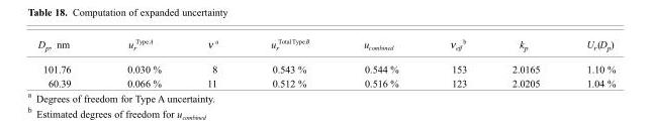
<table><thead><tr><td>D<sub>p</sub>, nm</td><td>u<sub>r</sub> <sup>TypeA</sup></td><td>ν <sup>a</sup></td><td>u<sub>r</sub> <sup>TotalTypeB</sup></td><td>u<sub>combined</sub></td><td>ν<sub>eff</sub> <sup>b</sup></td><td>k<sub>p</sub></td><td>U<sub>r</sub>(D<sub>p</sub>)</td></tr></thead><tbody><tr><td>101.76</td><td>0.030 %</td><td>8</td><td>0.543 %</td><td>0.544 %</td><td>153</td><td>2.0165</td><td>1.10 %</td></tr><tr><td>60.39</td><td>0.066 %</td><td>11</td><td>0.512 %</td><td>0.516 %</td><td>123</td><td>2.0205</td><td>1.04 %</td></tr></tbody></table>